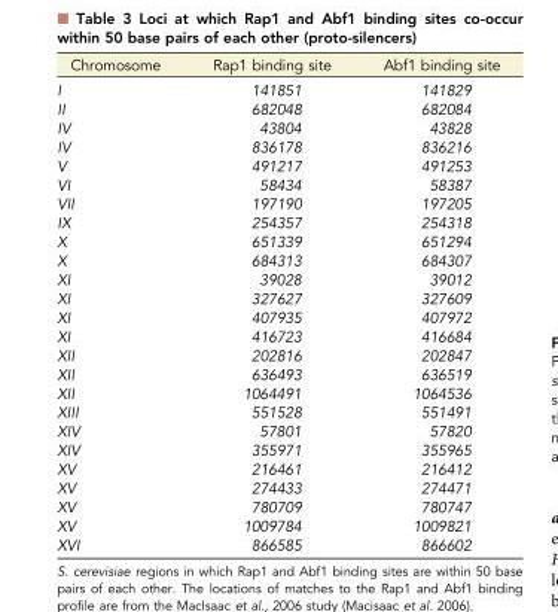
<table><thead><tr><td>Chromosome</td><td>Rap1 binding site</td><td>Abf1 binding site</td></tr></thead><tbody><tr><td>I</td><td>141851</td><td>141829</td></tr><tr><td>II</td><td>682048</td><td>682084</td></tr><tr><td>IV</td><td>43804</td><td>43828</td></tr><tr><td>IV</td><td>836178</td><td>836216</td></tr><tr><td>V</td><td>491217</td><td>491253</td></tr><tr><td>VI</td><td>58434</td><td>58387</td></tr><tr><td>VII</td><td>197190</td><td>197205</td></tr><tr><td>IX</td><td>254357</td><td>254318</td></tr><tr><td>X</td><td>651339</td><td>651294</td></tr><tr><td>X</td><td>684313</td><td>684307</td></tr><tr><td>XI</td><td>39028</td><td>39012</td></tr><tr><td>XI</td><td>327627</td><td>327609</td></tr><tr><td>XI</td><td>407935</td><td>407972</td></tr><tr><td>XI</td><td>416723</td><td>416684</td></tr><tr><td>XII</td><td>202816</td><td>202847</td></tr><tr><td>XII</td><td>636493</td><td>636519</td></tr><tr><td>XII</td><td>1064491</td><td>1064536</td></tr><tr><td>XIII</td><td>551528</td><td>551491</td></tr><tr><td>XIV</td><td>57801</td><td>57820</td></tr><tr><td>XIV</td><td>355971</td><td>355965</td></tr><tr><td>XV</td><td>216461</td><td>216412</td></tr><tr><td>XV</td><td>274433</td><td>274471</td></tr><tr><td>XV</td><td>780709</td><td>780747</td></tr><tr><td>XV</td><td>1009784</td><td>1009821</td></tr><tr><td>XVI</td><td>866585</td><td>866602</td></tr></tbody></table>